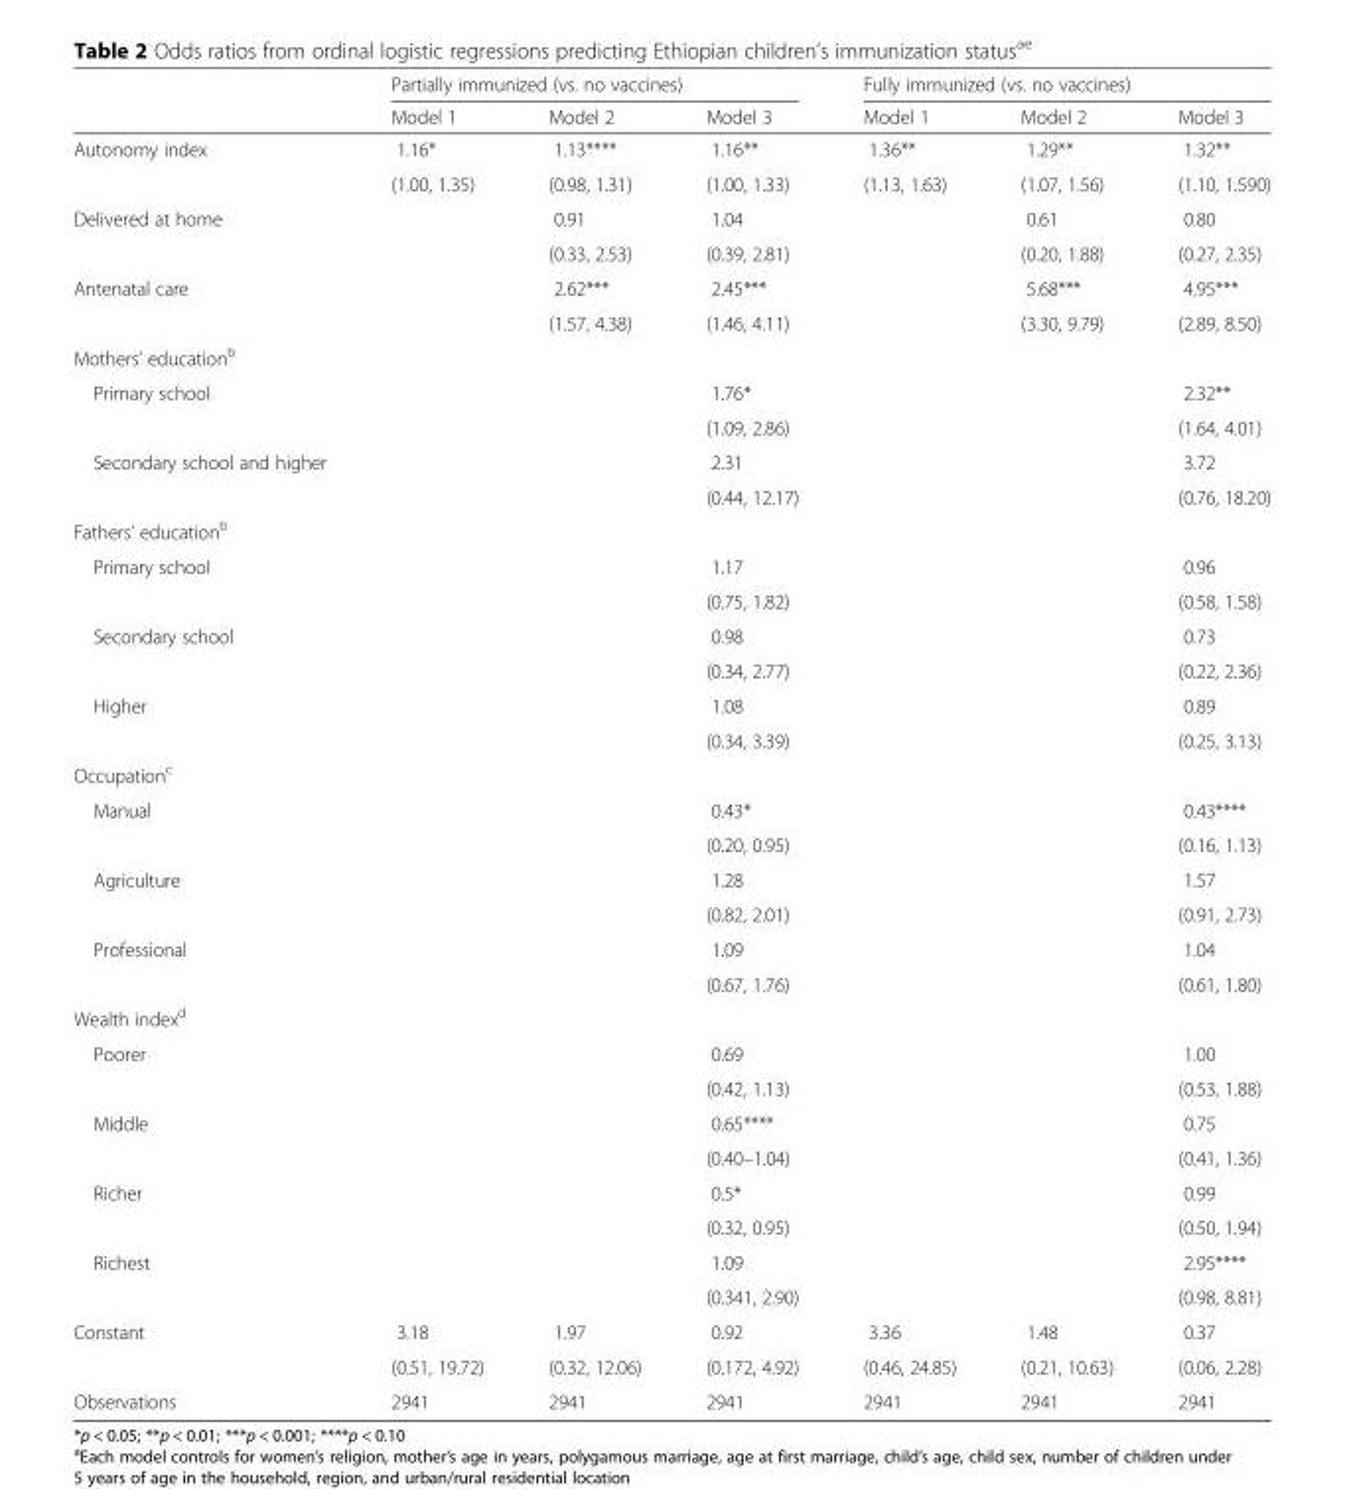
<table><thead><tr><td rowspan="2"></td><td colspan="3">Partially immunized (vs. no vaccines)</td><td colspan="3">Fully immunized (vs. no vaccines)</td></tr><tr><td>Model 1</td><td>Model 2</td><td>Model 3</td><td>Model 1</td><td>Model 2</td><td>Model 3</td></tr></thead><tbody><tr><td rowspan="2">Autonomy index</td><td>1.16*</td><td>1.13****</td><td>1.16**</td><td>1.36**</td><td>1.29**</td><td>1.32**</td></tr><tr><td>(1.00, 1.35)</td><td>(0.98, 1.31)</td><td>(1.00, 1.33)</td><td>(1.13, 1.63)</td><td>(1.07, 1.56)</td><td>(1.10, 1.590)</td></tr><tr><td rowspan="2">Delivered at home</td><td></td><td>0.91</td><td>1.04</td><td></td><td>0.61</td><td>0.80</td></tr><tr><td></td><td>(0.33, 2.53)</td><td>(0.39, 2.81)</td><td></td><td>(0.20, 1.88)</td><td>(0.27, 2.35)</td></tr><tr><td rowspan="2">Antenatal care</td><td></td><td>2.62***</td><td>2.45***</td><td></td><td>5.68***</td><td>4.95***</td></tr><tr><td></td><td>(1.57, 4.38)</td><td>(1.46, 4.11)</td><td></td><td>(3.30, 9.79)</td><td>(2.89, 8.50)</td></tr><tr><td colspan="7">Mothers’ education<sup>b</sup></td></tr><tr><td rowspan="2">Primary school</td><td></td><td></td><td>1.76*</td><td></td><td></td><td>2.32**</td></tr><tr><td></td><td></td><td>(1.09, 2.86)</td><td></td><td></td><td>(1.64, 4.01)</td></tr><tr><td rowspan="2">Secondary school and higher</td><td></td><td></td><td>2.31</td><td></td><td></td><td>3.72</td></tr><tr><td></td><td></td><td>(0.44, 12.17)</td><td></td><td></td><td>(0.76, 18.20)</td></tr><tr><td colspan="7">Fathers’ education<sup>b</sup></td></tr><tr><td rowspan="2">Primary school</td><td></td><td></td><td>1.17</td><td></td><td></td><td>0.96</td></tr><tr><td></td><td></td><td>(0.75, 1.82)</td><td></td><td></td><td>(0.58, 1.58)</td></tr><tr><td rowspan="2">Secondary school</td><td></td><td></td><td>0.98</td><td></td><td></td><td>0.73</td></tr><tr><td></td><td></td><td>(0.34, 2.77)</td><td></td><td></td><td>(0.22, 2.36)</td></tr><tr><td rowspan="2">Higher</td><td></td><td></td><td>1.08</td><td></td><td></td><td>0.89</td></tr><tr><td></td><td></td><td>(0.34, 3.39)</td><td></td><td></td><td>(0.25, 3.13)</td></tr><tr><td colspan="7">Occupation<sup>c</sup></td></tr><tr><td rowspan="2">Manual</td><td></td><td></td><td>0.43*</td><td></td><td></td><td>0.43****</td></tr><tr><td></td><td></td><td>(0.20, 0.95)</td><td></td><td></td><td>(0.16, 1.13)</td></tr><tr><td rowspan="2">Agriculture</td><td></td><td></td><td>1.28</td><td></td><td></td><td>1.57</td></tr><tr><td></td><td></td><td>(0.82, 2.01)</td><td></td><td></td><td>(0.91, 2.73)</td></tr><tr><td rowspan="2">Professional</td><td></td><td></td><td>1.09</td><td></td><td></td><td>1.04</td></tr><tr><td></td><td></td><td>(0.67, 1.76)</td><td></td><td></td><td>(0.61, 1.80)</td></tr><tr><td colspan="7">Wealth index<sup>d</sup></td></tr><tr><td rowspan="2">Poorer</td><td></td><td></td><td>0.69</td><td></td><td></td><td>1.00</td></tr><tr><td></td><td></td><td>(0.42, 1.13)</td><td></td><td></td><td>(0.53, 1.88)</td></tr><tr><td rowspan="2">Middle</td><td></td><td></td><td>0.65****</td><td></td><td></td><td>0.75</td></tr><tr><td></td><td></td><td>(0.40–1.04)</td><td></td><td></td><td>(0.41, 1.36)</td></tr><tr><td rowspan="2">Richer</td><td></td><td></td><td>0.5*</td><td></td><td></td><td>0.99</td></tr><tr><td></td><td></td><td>(0.32, 0.95)</td><td></td><td></td><td>(0.50, 1.94)</td></tr><tr><td rowspan="2">Richest</td><td></td><td></td><td>1.09</td><td></td><td></td><td>2.95****</td></tr><tr><td></td><td></td><td>(0.341, 2.90)</td><td></td><td></td><td>(0.98, 8.81)</td></tr><tr><td rowspan="2">Constant</td><td>3.18</td><td>1.97</td><td>0.92</td><td>3.36</td><td>1.48</td><td>0.37</td></tr><tr><td>(0.51, 19.72)</td><td>(0.32, 12.06)</td><td>(0.172, 4.92)</td><td>(0.46, 24.85)</td><td>(0.21, 10.63)</td><td>(0.06, 2.28)</td></tr><tr><td>Observations</td><td>2941</td><td>2941</td><td>2941</td><td>2941</td><td>2941</td><td>2941</td></tr></tbody></table>